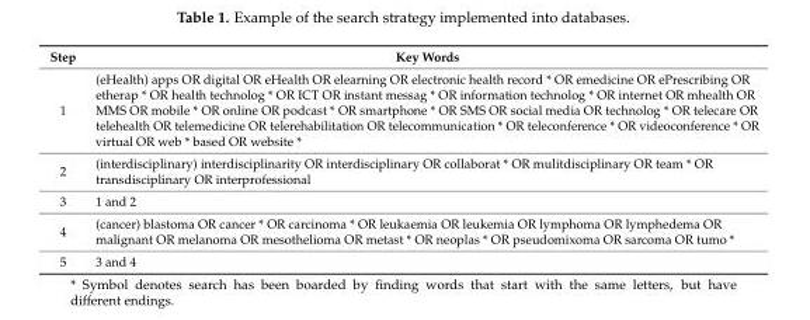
<table><thead><tr><td>Step</td><td>Key Words</td></tr></thead><tbody><tr><td>1</td><td>(eHealth) apps OR digital OR eHealth OR elearning OR electronic health record * OR emedicine OR ePrescribing OR etherap * OR health technolog * OR ICT OR instant messag * OR information technolog * OR internet OR mhealth OR MMS OR mobile * OR online OR podcast * OR smartphone * OR SMS OR social media OR technolog * OR telecare OR telehealth OR telemedicine OR telerehabilitation OR telecommunication * OR teleconference * OR videoconference * OR virtual OR web * based OR website *</td></tr><tr><td>2</td><td>(interdisciplinary) interdisciplinarity OR interdisciplinary OR collaborat * OR mulitdisciplinary OR team * OR transdisciplinary OR interprofessional</td></tr><tr><td>3</td><td>1 and 2</td></tr><tr><td>4</td><td>(cancer) blastoma OR cancer * OR carcinoma * OR leukaemia OR leukemia OR lymphoma OR lymphedema OR malignant OR melanoma OR mesothelioma OR metast * OR neoplas * OR pseudomixoma OR sarcoma OR tumo *</td></tr><tr><td>5</td><td>3 and 4</td></tr></tbody></table>